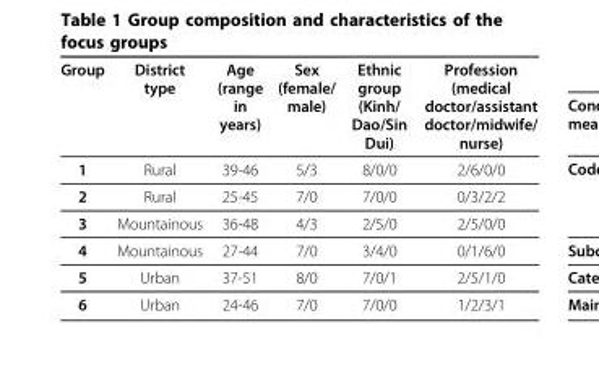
<table><thead><tr><td>Group</td><td>District type</td><td>Age (range in years)</td><td>Sex (female/ male)</td><td>Ethnic group (Kinh/ Dao/Sin Dui)</td><td>Profession (medical doctor/assistant doctor/midwife/ nurse)</td></tr></thead><tbody><tr><td>1</td><td>Rural</td><td>39-46</td><td>5/3</td><td>8/0/0</td><td>2/6/0/0</td></tr><tr><td>2</td><td>Rural</td><td>25-45</td><td>7/0</td><td>7/0/0</td><td>0/3/2/2</td></tr><tr><td>3</td><td>Mountainous</td><td>36-48</td><td>4/3</td><td>2/5/0</td><td>2/5/0/0</td></tr><tr><td>4</td><td>Mountainous</td><td>27-44</td><td>7/0</td><td>3/4/0</td><td>0/1/6/0</td></tr><tr><td>5</td><td>Urban</td><td>37-51</td><td>8/0</td><td>7/0/1</td><td>2/5/1/0</td></tr><tr><td>6</td><td>Urban</td><td>24-46</td><td>7/0</td><td>7/0/0</td><td>1/2/3/1</td></tr></tbody></table>